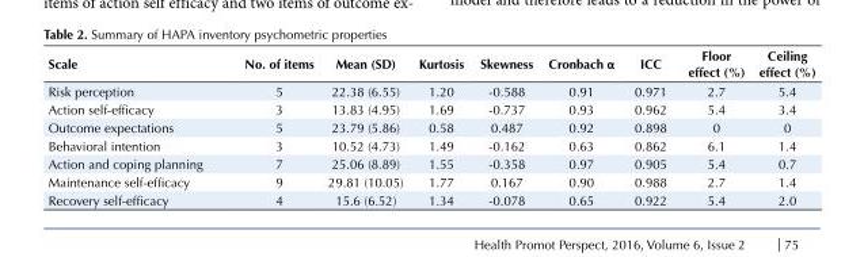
<table><tbody><tr><td>Scale</td><td>No. of items</td><td>Mean (SD)</td><td>Kurtosis</td><td>Skewness</td><td>Cronbach α</td><td>ICC</td><td>Floor effect (%)</td><td>Ceiling effect (%)</td></tr><tr><td>Risk perception</td><td>5</td><td>22.38 (6.55)</td><td>1.20</td><td>-0.588</td><td>0.91</td><td>0.971</td><td>2.7</td><td>5.4</td></tr><tr><td>Action self-efficacy</td><td>3</td><td>13.83 (4.95)</td><td>1.69</td><td>-0.737</td><td>0.93</td><td>0.962</td><td>5.4</td><td>3.4</td></tr><tr><td>Outcome expectations</td><td>5</td><td>23.79 (5.86)</td><td>0.58</td><td>0.487</td><td>0.92</td><td>0.898</td><td>0</td><td>0</td></tr><tr><td>Behavioral intention</td><td>3</td><td>10.52 (4.73)</td><td>1.49</td><td>-0.162</td><td>0.63</td><td>0.862</td><td>6.1</td><td>1.4</td></tr><tr><td>Action and coping planning</td><td>7</td><td>25.06 (8.89)</td><td>1.55</td><td>-0.358</td><td>0.97</td><td>0.905</td><td>5.4</td><td>0.7</td></tr><tr><td>Maintenance self-efficacy</td><td>9</td><td>29.81 (10.05)</td><td>1.77</td><td>0.167</td><td>0.90</td><td>0.988</td><td>2.7</td><td>1.4</td></tr><tr><td>Recovery self-efficacy</td><td>4</td><td>15.6 (6.52)</td><td>1.34</td><td>-0.078</td><td>0.65</td><td>0.922</td><td>5.4</td><td>2.0</td></tr></tbody></table>